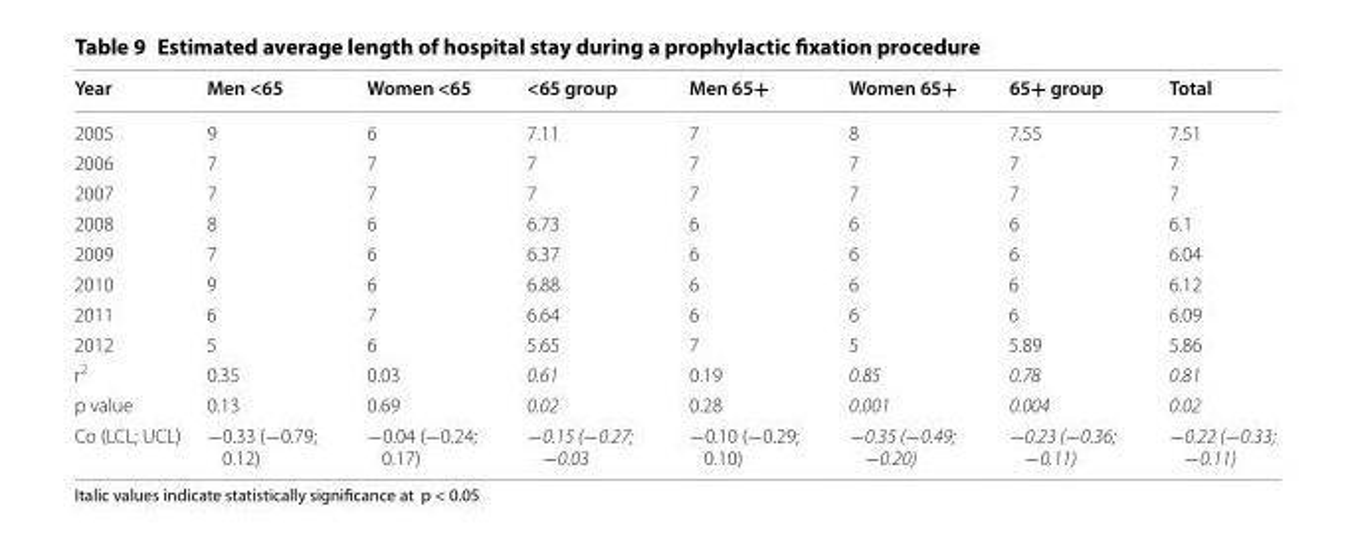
<table><thead><tr><td>Year</td><td>Men &lt;65</td><td>Women &lt;65</td><td>&lt;65 group</td><td>Men 65+</td><td>Women 65+</td><td>65+ group</td><td>Total</td></tr></thead><tbody><tr><td>2005</td><td>9</td><td>6</td><td>7.11</td><td>7</td><td>8</td><td>7.55</td><td>7.51</td></tr><tr><td>2006</td><td>7</td><td>7</td><td>7</td><td>7</td><td>7</td><td>7</td><td>7</td></tr><tr><td>2007</td><td>7</td><td>7</td><td>7</td><td>7</td><td>7</td><td>7</td><td>7</td></tr><tr><td>2008</td><td>8</td><td>6</td><td>6.73</td><td>6</td><td>6</td><td>6</td><td>6.1</td></tr><tr><td>2009</td><td>7</td><td>6</td><td>6.37</td><td>6</td><td>6</td><td>6</td><td>6.04</td></tr><tr><td>2010</td><td>9</td><td>6</td><td>6.88</td><td>6</td><td>6</td><td>6</td><td>6.12</td></tr><tr><td>2011</td><td>6</td><td>7</td><td>6.64</td><td>6</td><td>6</td><td>6</td><td>6.09</td></tr><tr><td>2012</td><td>5</td><td>6</td><td>5.65</td><td>7</td><td>5</td><td>5.89</td><td>5.86</td></tr><tr><td>r<sup>2</sup></td><td>0.35</td><td>0.03</td><td>0.61</td><td>0.19</td><td>0.85</td><td>0.78</td><td>0.81</td></tr><tr><td>p value</td><td>0.13</td><td>0.69</td><td>0.02</td><td>0.28</td><td>0.001</td><td>0.004</td><td>0.02</td></tr><tr><td>Co (LCL; UCL)</td><td>−0.33 (−0.79; 0.12)</td><td>−0.04 (−0.24; 0.17)</td><td>−0.15 (−0.27; −0.03</td><td>−0.10 (−0.29; 0.10)</td><td>−0.35 (−0.49; −0.20)</td><td>−0.23 (−0.36; −0.11)</td><td>−0.22 (−0.33; −0.11)</td></tr></tbody></table>